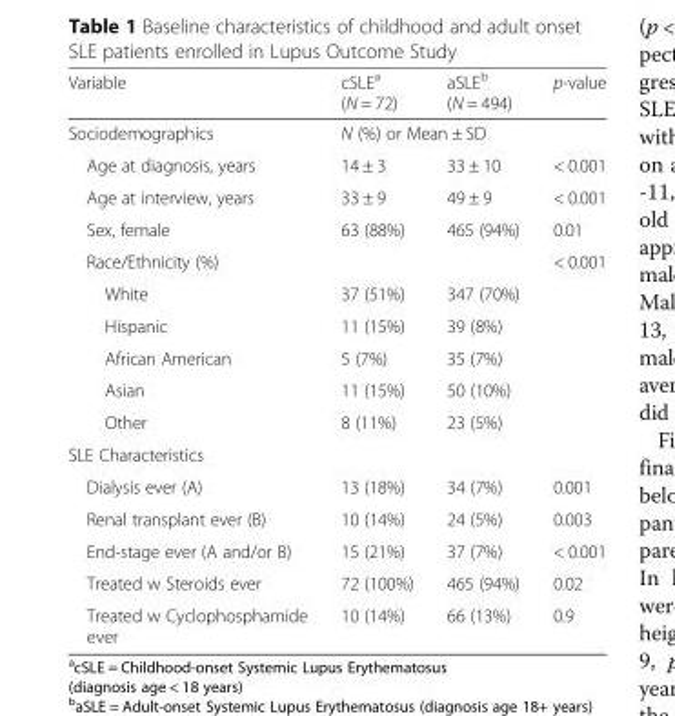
<table><thead><tr><td>Variable</td><td>cSLE<sup>a</sup> (N = 72)</td><td>aSLE<sup>b</sup> (N = 494)</td><td>p-value</td></tr></thead><tbody><tr><td>Sociodemographics</td><td colspan="2">N (%) or Mean ± SD</td><td></td></tr><tr><td>Age at diagnosis, years</td><td>14 ± 3</td><td>33 ± 10</td><td>&lt; 0.001</td></tr><tr><td>Age at interview, years</td><td>33 ± 9</td><td>49 ± 9</td><td>&lt; 0.001</td></tr><tr><td>Sex, female</td><td>63 (88%)</td><td>465 (94%)</td><td>0.01</td></tr><tr><td>Race/Ethnicity (%)</td><td></td><td></td><td>&lt; 0.001</td></tr><tr><td>White</td><td>37 (51%)</td><td>347 (70%)</td><td></td></tr><tr><td>Hispanic</td><td>11 (15%)</td><td>39 (8%)</td><td></td></tr><tr><td>African American</td><td>5 (7%)</td><td>35 (7%)</td><td></td></tr><tr><td>Asian</td><td>11 (15%)</td><td>50 (10%)</td><td></td></tr><tr><td>Other</td><td>8 (11%)</td><td>23 (5%)</td><td></td></tr><tr><td colspan="4">SLE Characteristics</td></tr><tr><td>Dialysis ever (A)</td><td>13 (18%)</td><td>34 (7%)</td><td>0.001</td></tr><tr><td>Renal transplant ever (B)</td><td>10 (14%)</td><td>24 (5%)</td><td>0.003</td></tr><tr><td>End-stage ever (A and/or B)</td><td>15 (21%)</td><td>37 (7%)</td><td>&lt; 0.001</td></tr><tr><td>Treated w Steroids ever</td><td>72 (100%)</td><td>465 (94%)</td><td>0.02</td></tr><tr><td>Treated w Cyclophosphamide ever</td><td>10 (14%)</td><td>66 (13%)</td><td>0.9</td></tr></tbody></table>